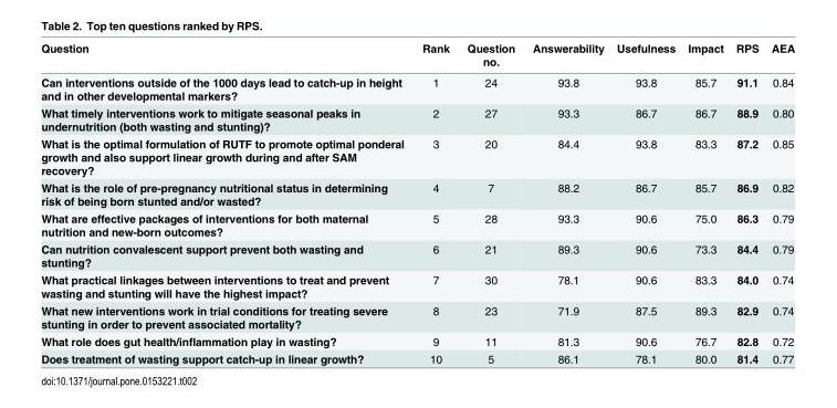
<table><thead><tr><td>Question</td><td>Rank</td><td>Question no.</td><td>Answerability</td><td>Usefulness</td><td>Impact</td><td>RPS</td><td>AEA</td></tr></thead><tbody><tr><td>Can interventions outside of the 1000 days lead to catch-up in height and in other developmental markers?</td><td>1</td><td>24</td><td>93.8</td><td>93.8</td><td>85.7</td><td>91.1</td><td>0.84</td></tr><tr><td>What timely interventions work to mitigate seasonal peaks in undernutrition (both wasting and stunting)?</td><td>2</td><td>27</td><td>93.3</td><td>86.7</td><td>86.7</td><td>88.9</td><td>0.80</td></tr><tr><td>What is the optimal formulation of RUTF to promote optimal ponderal growth and also support linear growth during and after SAM recovery?</td><td>3</td><td>20</td><td>84.4</td><td>93.8</td><td>83.3</td><td>87.2</td><td>0.85</td></tr><tr><td>What is the role of pre-pregnancy nutritional status in determining risk of being born stunted and/or wasted?</td><td>4</td><td>7</td><td>88.2</td><td>86.7</td><td>85.7</td><td>86.9</td><td>0.82</td></tr><tr><td>What are effective packages of interventions for both maternal nutrition and new-born outcomes?</td><td>5</td><td>28</td><td>93.3</td><td>90.6</td><td>75.0</td><td>86.3</td><td>0.79</td></tr><tr><td>Can nutrition convalescent support prevent both wasting and stunting?</td><td>6</td><td>21</td><td>89.3</td><td>90.6</td><td>73.3</td><td>84.4</td><td>0.79</td></tr><tr><td>What practical linkages between interventions to treat and prevent wasting and stunting will have the highest impact?</td><td>7</td><td>30</td><td>78.1</td><td>90.6</td><td>83.3</td><td>84.0</td><td>0.74</td></tr><tr><td>What new interventions work in trial conditions for treating severe stunting in order to prevent associated mortality?</td><td>8</td><td>23</td><td>71.9</td><td>87.5</td><td>89.3</td><td>82.9</td><td>0.74</td></tr><tr><td>What role does gut health/inflammation play in wasting?</td><td>9</td><td>11</td><td>81.3</td><td>90.6</td><td>76.7</td><td>82.8</td><td>0.72</td></tr><tr><td>Does treatment of wasting support catch-up in linear growth?</td><td>10</td><td>5</td><td>86.1</td><td>78.1</td><td>80.0</td><td>81.4</td><td>0.77</td></tr></tbody></table>